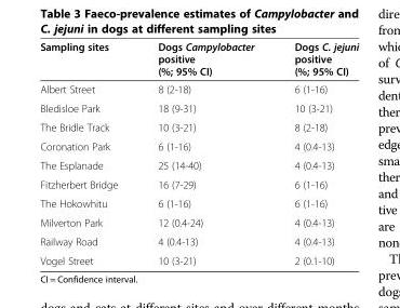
<table><thead><tr><td>Sampling sites</td><td>Dogs Campylobacter positive (%; 95% CI)</td><td>Dogs C. jejuni positive (%; 95% CI)</td></tr></thead><tbody><tr><td>Albert Street</td><td>8 (2-18)</td><td>6 (1-16)</td></tr><tr><td>Bledisloe Park</td><td>18 (9-31)</td><td>10 (3-21)</td></tr><tr><td>The Bridle Track</td><td>10 (3-21)</td><td>8 (2-18)</td></tr><tr><td>Coronation Park</td><td>6 (1-16)</td><td>4 (0.4-13)</td></tr><tr><td>The Esplanade</td><td>25 (14-40)</td><td>4 (0.4-13)</td></tr><tr><td>Fitzherbert Bridge</td><td>16 (7-29)</td><td>6 (1-16)</td></tr><tr><td>The Hokowhitu</td><td>6 (1-16)</td><td>6 (1-16)</td></tr><tr><td>Milverton Park</td><td>12 (0.4-24)</td><td>4 (0.4-13)</td></tr><tr><td>Railway Road</td><td>4 (0.4-13)</td><td>4 (0.4-13)</td></tr><tr><td>Vogel Street</td><td>10 (3-21)</td><td>2 (0.1-10)</td></tr></tbody></table>